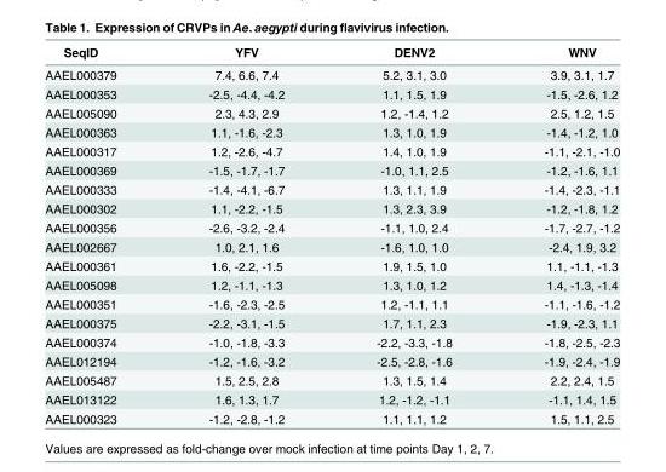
<table><thead><tr><td>SeqID</td><td>YFV</td><td>DENV2</td><td>WNV</td></tr></thead><tbody><tr><td>AAEL000379</td><td>7.4, 6.6, 7.4</td><td>5.2, 3.1, 3.0</td><td>3.9, 3.1, 1.7</td></tr><tr><td>AAEL000353</td><td>-2.5, -4.4, -4.2</td><td>1.1, 1.5, 1.9</td><td>-1.5, -2.6, 1.2</td></tr><tr><td>AAEL005090</td><td>2.3, 4.3, 2.9</td><td>1.2, -1.4, 1.2</td><td>2.5, 1.2, 1.5</td></tr><tr><td>AAEL000363</td><td>1.1, -1.6, -2.3</td><td>1.3, 1.0, 1.9</td><td>-1.4, -1.2, 1.0</td></tr><tr><td>AAEL000317</td><td>1.2, -2.6, -4.7</td><td>1.4, 1.0, 1.9</td><td>-1.1, -2.1, -1.0</td></tr><tr><td>AAEL000369</td><td>-1.5, -1.7, -1.7</td><td>-1.0, 1.1, 2.5</td><td>-1.2, -1.6, 1.1</td></tr><tr><td>AAEL000333</td><td>-1.4, -4.1, -6.7</td><td>1.3, 1.1, 1.9</td><td>-1.4, -2.3, -1.1</td></tr><tr><td>AAEL000302</td><td>1.1, -2.2, -1.5</td><td>1.3, 2.3, 3.9</td><td>-1.2, -1.8, 1.2</td></tr><tr><td>AAEL000356</td><td>-2.6, -3.2, -2.4</td><td>-1.1, 1.0, 2.4</td><td>-1.7, -2.7, -1.2</td></tr><tr><td>AAEL002667</td><td>1.0, 2.1, 1.6</td><td>-1.6, 1.0, 1.0</td><td>-2.4, 1.9, 3.2</td></tr><tr><td>AAEL000361</td><td>1.6, -2.2, -1.5</td><td>1.9, 1.5, 1.0</td><td>1.1, -1.1, -1.3</td></tr><tr><td>AAEL005098</td><td>1.2, -1.1, -1.3</td><td>1.3, 1.0, 1.2</td><td>1.4, -1.3, -1.4</td></tr><tr><td>AAEL000351</td><td>-1.6, -2.3, -2.5</td><td>1.2, -1.1, 1.1</td><td>-1.1, -1.6, -1.2</td></tr><tr><td>AAEL000375</td><td>-2.2, -3.1, -1.5</td><td>1.7, 1.1, 2.3</td><td>-1.9, -2.3, 1.1</td></tr><tr><td>AAEL000374</td><td>-1.0, -1.8, -3.3</td><td>-2.2, -3.3, -1.8</td><td>-1.8, -2.5, -2.3</td></tr><tr><td>AAEL012194</td><td>-1.2, -1.6, -3.2</td><td>-2.5, -2.8, -1.6</td><td>-1.9, -2.4, -1.9</td></tr><tr><td>AAEL005487</td><td>1.5, 2.5, 2.8</td><td>1.3, 1.5, 1.4</td><td>2.2, 2.4, 1.5</td></tr><tr><td>AAEL013122</td><td>1.6, 1.3, 1.7</td><td>1.2, -1.2, -1.1</td><td>-1.1, 1.4, 1.5</td></tr><tr><td>AAEL000323</td><td>-1.2, -2.8, -1.2</td><td>1.1, 1.1, 1.2</td><td>1.5, 1.1, 2.5</td></tr></tbody></table>